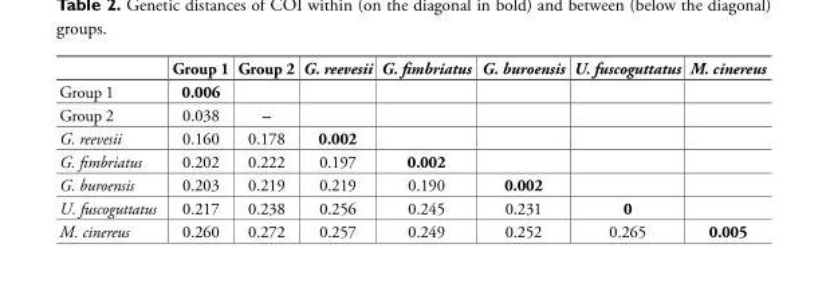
<table><thead><tr><td></td><td>Group 1</td><td>Group 2</td><td>G. reevesii</td><td>G. fimbriatus</td><td>G. buroensis</td><td>U. fuscoguttatus</td><td>M. cinereus</td></tr></thead><tbody><tr><td>Group 1</td><td>0.006</td><td></td><td></td><td></td><td></td><td></td><td></td></tr><tr><td>Group 2</td><td>0.038</td><td>–</td><td></td><td></td><td></td><td></td><td></td></tr><tr><td>G. reevesii</td><td>0.160</td><td>0.178</td><td>0.002</td><td></td><td></td><td></td><td></td></tr><tr><td>G. fimbriatus</td><td>0.202</td><td>0.222</td><td>0.197</td><td>0.002</td><td></td><td></td><td></td></tr><tr><td>G. buroensis</td><td>0.203</td><td>0.219</td><td>0.219</td><td>0.190</td><td>0.002</td><td></td><td></td></tr><tr><td>U. fuscoguttatus</td><td>0.217</td><td>0.238</td><td>0.256</td><td>0.245</td><td>0.231</td><td>0</td><td></td></tr><tr><td>M. cinereus</td><td>0.260</td><td>0.272</td><td>0.257</td><td>0.249</td><td>0.252</td><td>0.265</td><td>0.005</td></tr></tbody></table>